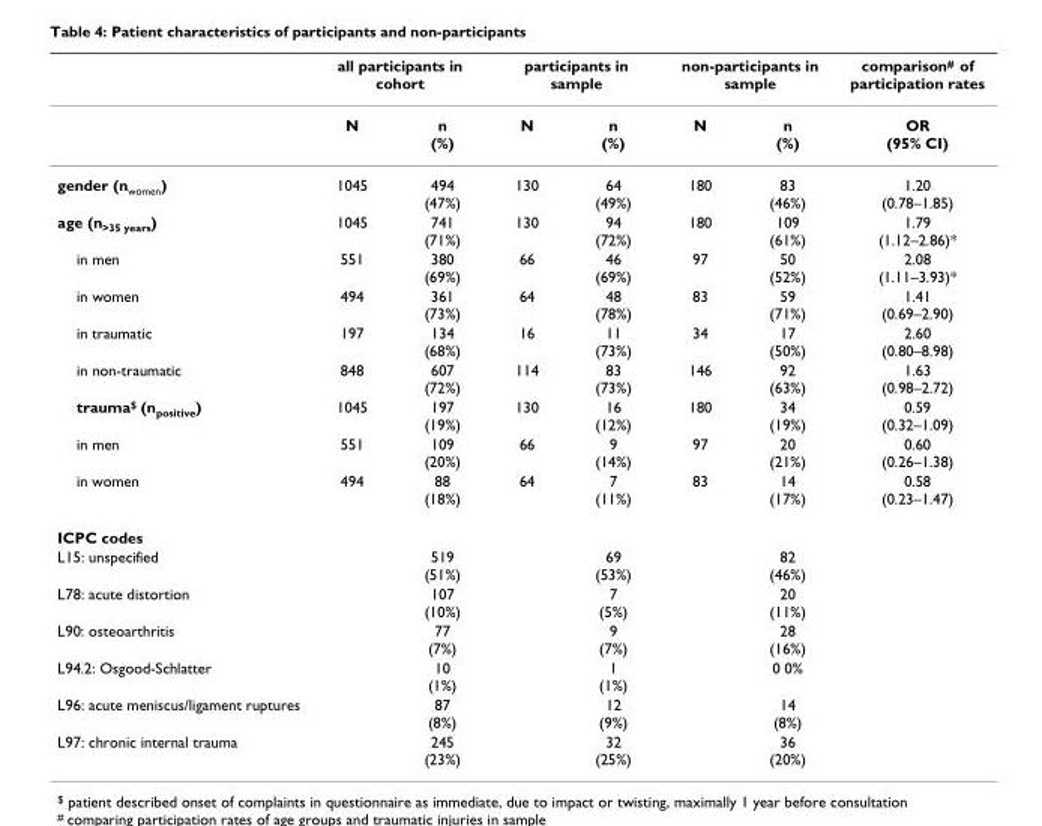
<table><thead><tr><td rowspan="2"></td><td colspan="2">all participants in cohort</td><td colspan="2">participants in sample</td><td colspan="2">non-participants in sample</td><td rowspan="2">comparison<sup>#</sup> of participation rates OR (95% CI)</td></tr><tr><td>N</td><td>n (%)</td><td>N</td><td>n (%)</td><td>N</td><td>n (%)</td></tr></thead><tbody><tr><td>gender (n<sub>women</sub>)</td><td>1045</td><td>494 (47%)</td><td>130</td><td>64 (49%)</td><td>180</td><td>83 (46%)</td><td>1.20 (0.78–1.85)</td></tr><tr><td>age (n<sub>&gt;35 years</sub>)</td><td>1045</td><td>741 (71%)</td><td>130</td><td>94 (72%)</td><td>180</td><td>109 (61%)</td><td>1.79 (1.12–2.86)*</td></tr><tr><td>in men</td><td>551</td><td>380 (69%)</td><td>66</td><td>46 (69%)</td><td>97</td><td>50 (52%)</td><td>2.08 (1.11–3.93)*</td></tr><tr><td>in women</td><td>494</td><td>361 (73%)</td><td>64</td><td>48 (78%)</td><td>83</td><td>59 (71%)</td><td>1.41 (0.69–2.90)</td></tr><tr><td>in traumatic</td><td>197</td><td>134 (68%)</td><td>16</td><td>11 (73%)</td><td>34</td><td>17 (50%)</td><td>2.60 (0.80–8.98)</td></tr><tr><td>in non-traumatic</td><td>848</td><td>607 (72%)</td><td>114</td><td>83 (73%)</td><td>146</td><td>92 (63%)</td><td>1.63 (0.98–2.72)</td></tr><tr><td>trauma<sup>$</sup> (n<sub>positive</sub>)</td><td>1045</td><td>197 (19%)</td><td>130</td><td>16 (12%)</td><td>180</td><td>34 (19%)</td><td>0.59 (0.32–1.09)</td></tr><tr><td>in men</td><td>551</td><td>109 (20%)</td><td>66</td><td>9 (14%)</td><td>97</td><td>20 (21%)</td><td>0.60 (0.26–1.38)</td></tr><tr><td>in women</td><td>494</td><td>88 (18%)</td><td>64</td><td>7 (11%)</td><td>83</td><td>14 (17%)</td><td>0.58 (0.23–1.47)</td></tr><tr><td colspan="8">ICPC codes</td></tr><tr><td>L15: unspecified</td><td></td><td>519 (51%)</td><td></td><td>69 (53%)</td><td></td><td>82 (46%)</td><td></td></tr><tr><td>L78: acute distortion</td><td></td><td>107 (10%)</td><td></td><td>7 (5%)</td><td></td><td>20 (11%)</td><td></td></tr><tr><td>L90: osteoarthritis</td><td></td><td>77 (7%)</td><td></td><td>9 (7%)</td><td></td><td>28 (16%)</td><td></td></tr><tr><td>L94.2: Osgood-Schlatter</td><td></td><td>10 (1%)</td><td></td><td>1 (1%)</td><td></td><td>0 0%</td><td></td></tr><tr><td>L96: acute meniscus/ligament ruptures</td><td></td><td>87 (8%)</td><td></td><td>12 (9%)</td><td></td><td>14 (8%)</td><td></td></tr><tr><td>L97: chronic internal trauma</td><td></td><td>245 (23%)</td><td></td><td>32 (25%)</td><td></td><td>36 (20%)</td><td></td></tr></tbody></table>